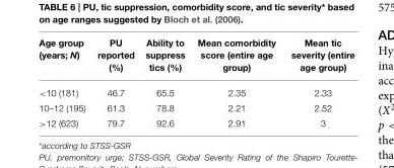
<table><thead><tr><td>Age group (years; N)</td><td>PU reported (%)</td><td>Ability to suppress tics (%)</td><td>Mean comorbidity score (entire age group)</td><td>Mean tic severity (entire age group)</td></tr></thead><tbody><tr><td>&lt;10 (181)</td><td>46.7</td><td>65.5</td><td>2.35</td><td>2.33</td></tr><tr><td>10–12 (195)</td><td>61.3</td><td>78.8</td><td>2.21</td><td>2.52</td></tr><tr><td>&gt;12 (623)</td><td>79.7</td><td>92.6</td><td>2.91</td><td>3</td></tr></tbody></table>